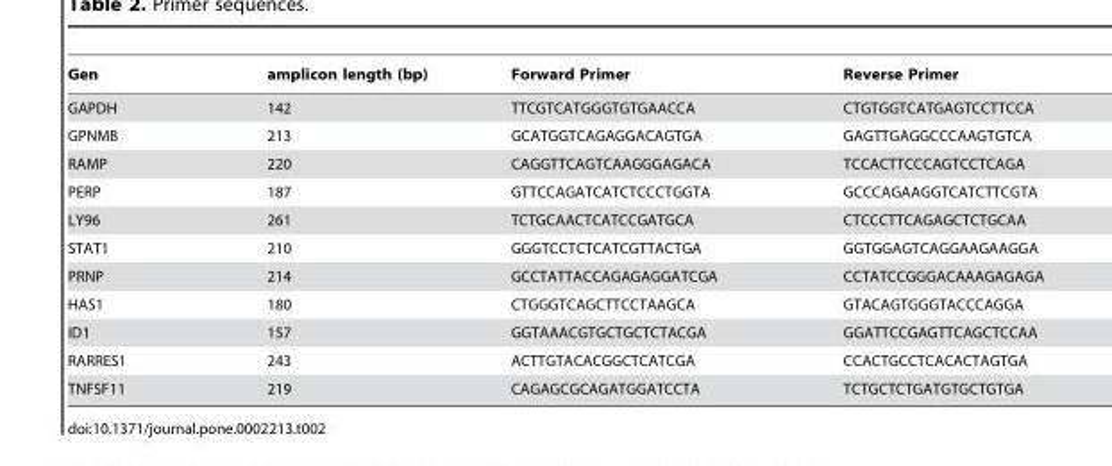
<table><thead><tr><td>Gen</td><td>amplicon length (bp)</td><td>Forward Primer</td><td>Reverse Primer</td></tr></thead><tbody><tr><td>GAPDH</td><td>142</td><td>TTCGTCATGGGTGTGAACCA</td><td>CTGTGGTCATGAGTCCTTCCA</td></tr><tr><td>GPNMB</td><td>213</td><td>GCATGGTCAGAGGACAGTGA</td><td>GAGTTGAGGCCCAAGTGTCA</td></tr><tr><td>RAMP</td><td>220</td><td>CAGGTTCAGTCAAGGGAGACA</td><td>TCCACTTCCCAGTCCTCAGA</td></tr><tr><td>PERP</td><td>187</td><td>GTTCCAGATCATCTCCCTGGTA</td><td>GCCCAGAAGGTCATCTTCGTA</td></tr><tr><td>LY96</td><td>261</td><td>TCTGCAACTCATCCGATGCA</td><td>CTCCCTTCAGAGCTCTGCAA</td></tr><tr><td>STAT1</td><td>210</td><td>GGGTCCTCTCATCGTTACTGA</td><td>GGTGGAGTCAGGAAGAAGGA</td></tr><tr><td>PRNP</td><td>214</td><td>GCCTATTACCAGAGAGGATCGA</td><td>CCTATCCGGGACAAAGAGAGA</td></tr><tr><td>HAS1</td><td>180</td><td>CTGGGTCAGCTTCCTAAGCA</td><td>GTACAGTGGGTACCCAGGA</td></tr><tr><td>ID1</td><td>157</td><td>GGTAAACGTGCTGCTCTACGA</td><td>GGATTCCGAGTTCAGCTCCAA</td></tr><tr><td>RARRES1</td><td>243</td><td>ACTTGTACACGGCTCATCGA</td><td>CCACTGCCTCACACTAGTGA</td></tr><tr><td>TNFSF11</td><td>219</td><td>CAGAGCGCAGATGGATCCTA</td><td>TCTGCTCTGATGTGCTGTGA</td></tr></tbody></table>